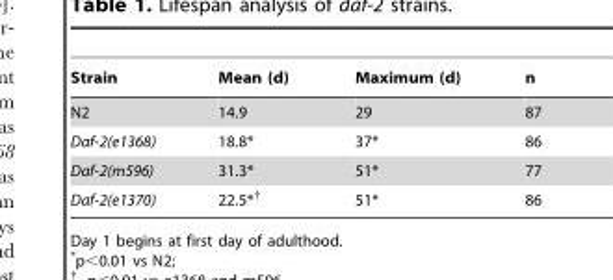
<table><thead><tr><td>Strain</td><td>Mean (d)</td><td>Maximum (d)</td><td>n</td></tr></thead><tbody><tr><td>N2</td><td>14.9</td><td>29</td><td>87</td></tr><tr><td>Daf-2(e1368)</td><td>18.8*</td><td>37*</td><td>86</td></tr><tr><td>Daf-2(m596)</td><td>31.3*</td><td>51*</td><td>77</td></tr><tr><td>Daf-2(e1370)</td><td>22.5*†</td><td>51*</td><td>86</td></tr></tbody></table>